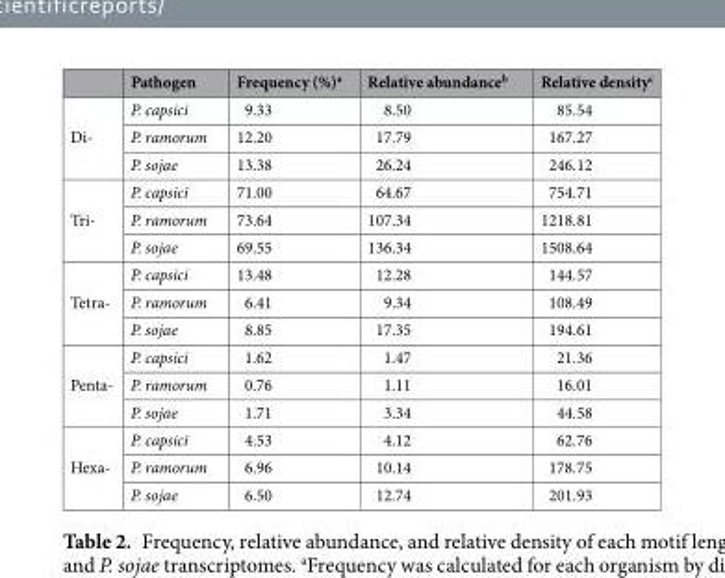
<table><thead><tr><td></td><td>Pathogen</td><td>Frequency (%)<sup>a</sup></td><td>Relative abundance<sup>b</sup></td><td>Relative density<sup>c</sup></td></tr></thead><tbody><tr><td rowspan="3">Di-</td><td>P. capsici</td><td>9.33</td><td>8.50</td><td>85.54</td></tr><tr><td>P. ramorum</td><td>12.20</td><td>17.79</td><td>167.27</td></tr><tr><td>P. sojae</td><td>13.38</td><td>26.24</td><td>246.12</td></tr><tr><td rowspan="3">Tri-</td><td>P. capsici</td><td>71.00</td><td>64.67</td><td>754.71</td></tr><tr><td>P. ramorum</td><td>73.64</td><td>107.34</td><td>1218.81</td></tr><tr><td>P. sojae</td><td>69.55</td><td>136.34</td><td>1508.64</td></tr><tr><td rowspan="3">Tetra-</td><td>P. capsici</td><td>13.48</td><td>12.28</td><td>144.57</td></tr><tr><td>P. ramorum</td><td>6.41</td><td>9.34</td><td>108.49</td></tr><tr><td>P. sojae</td><td>8.85</td><td>17.35</td><td>194.61</td></tr><tr><td rowspan="3">Penta-</td><td>P. capsici</td><td>1.62</td><td>1.47</td><td>21.36</td></tr><tr><td>P. ramorum</td><td>0.76</td><td>1.11</td><td>16.01</td></tr><tr><td>P. sojae</td><td>1.71</td><td>3.34</td><td>44.58</td></tr><tr><td rowspan="3">Hexa-</td><td>P. capsici</td><td>4.53</td><td>4.12</td><td>62.76</td></tr><tr><td>P. ramorum</td><td>6.96</td><td>10.14</td><td>178.75</td></tr><tr><td>P. sojae</td><td>6.50</td><td>12.74</td><td>201.93</td></tr></tbody></table>